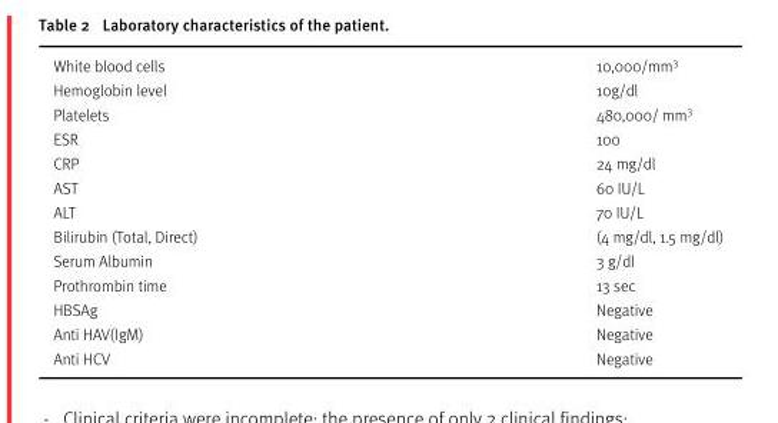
<table><tbody><tr><td>White blood cells</td><td>10,000/mm<sup>3</sup></td></tr><tr><td>Hemoglobin level</td><td>10g/dl</td></tr><tr><td>Platelets</td><td>480,000/ mm<sup>3</sup></td></tr><tr><td>ESR</td><td>100</td></tr><tr><td>CRP</td><td>24 mg/dl</td></tr><tr><td>AST</td><td>60 IU/L</td></tr><tr><td>ALT</td><td>70 IU/L</td></tr><tr><td>Bilirubin (Total, Direct)</td><td>(4 mg/dl, 1.5 mg/dl)</td></tr><tr><td>Serum Albumin</td><td>3 g/dl</td></tr><tr><td>Prothrombin time</td><td>13 sec</td></tr><tr><td>HBSAg</td><td>Negative</td></tr><tr><td>Anti HAV(IgM)</td><td>Negative</td></tr><tr><td>Anti HCV</td><td>Negative</td></tr></tbody></table>